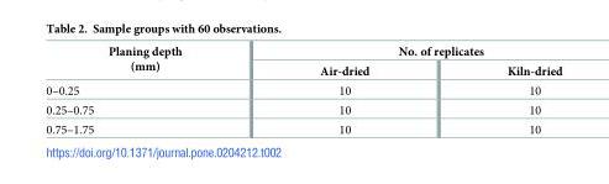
<table><thead><tr><td rowspan="2">Planing depth (mm)</td><td colspan="2">No. of replicates</td></tr><tr><td>Air-dried</td><td>Kiln-dried</td></tr></thead><tbody><tr><td>0–0.25</td><td>10</td><td>10</td></tr><tr><td>0.25–0.75</td><td>10</td><td>10</td></tr><tr><td>0.75–1.75</td><td>10</td><td>10</td></tr></tbody></table>